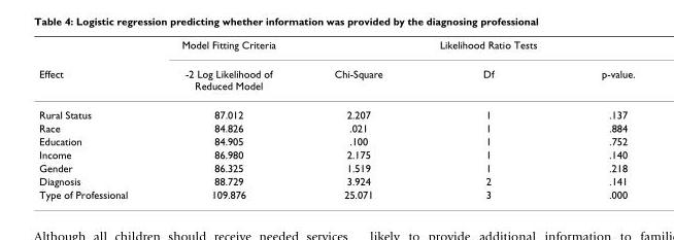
<table><thead><tr><td rowspan="2">Effect</td><td rowspan="2">Model Fitting Criteria -2 Log Likelihood of Reduced Model</td><td colspan="3">Likelihood Ratio Tests</td></tr><tr><td>Chi-Square</td><td>Df</td><td>p-value.</td></tr></thead><tbody><tr><td>Rural Status</td><td>87.012</td><td>2.207</td><td>1</td><td>.137</td></tr><tr><td>Race</td><td>84.826</td><td>.021</td><td>1</td><td>.884</td></tr><tr><td>Education</td><td>84.905</td><td>.100</td><td>1</td><td>.752</td></tr><tr><td>Income</td><td>86.980</td><td>2.175</td><td>1</td><td>.140</td></tr><tr><td>Gender</td><td>86.325</td><td>1.519</td><td>1</td><td>.218</td></tr><tr><td>Diagnosis</td><td>88.729</td><td>3.924</td><td>2</td><td>.141</td></tr><tr><td>Type of Professional</td><td>109.876</td><td>25.071</td><td>3</td><td>.000</td></tr></tbody></table>